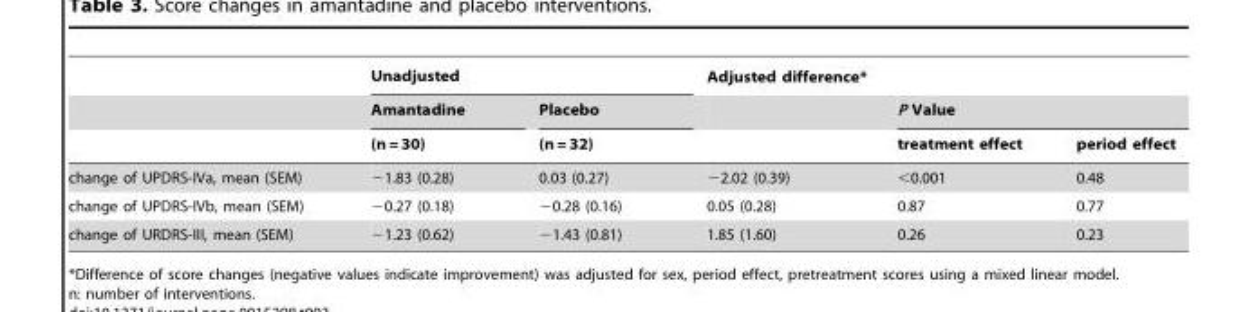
<table><thead><tr><td rowspan="3"></td><td colspan="2">Unadjusted</td><td rowspan="3">Adjusted difference*</td><td></td><td></td></tr><tr><td rowspan="2">Amantadine (n = 30)</td><td rowspan="2">Placebo (n = 32)</td><td colspan="2">P Value</td></tr><tr><td>treatment effect</td><td>period effect</td></tr></thead><tbody><tr><td>change of UPDRS-IVa, mean (SEM)</td><td>−1.83 (0.28)</td><td>0.03 (0.27)</td><td>−2.02 (0.39)</td><td>&lt;0.001</td><td>0.48</td></tr><tr><td>change of UPDRS-IVb, mean (SEM)</td><td>−0.27 (0.18)</td><td>−0.28 (0.16)</td><td>0.05 (0.28)</td><td>0.87</td><td>0.77</td></tr><tr><td>change of URDRS-III, mean (SEM)</td><td>−1.23 (0.62)</td><td>−1.43 (0.81)</td><td>1.85 (1.60)</td><td>0.26</td><td>0.23</td></tr></tbody></table>